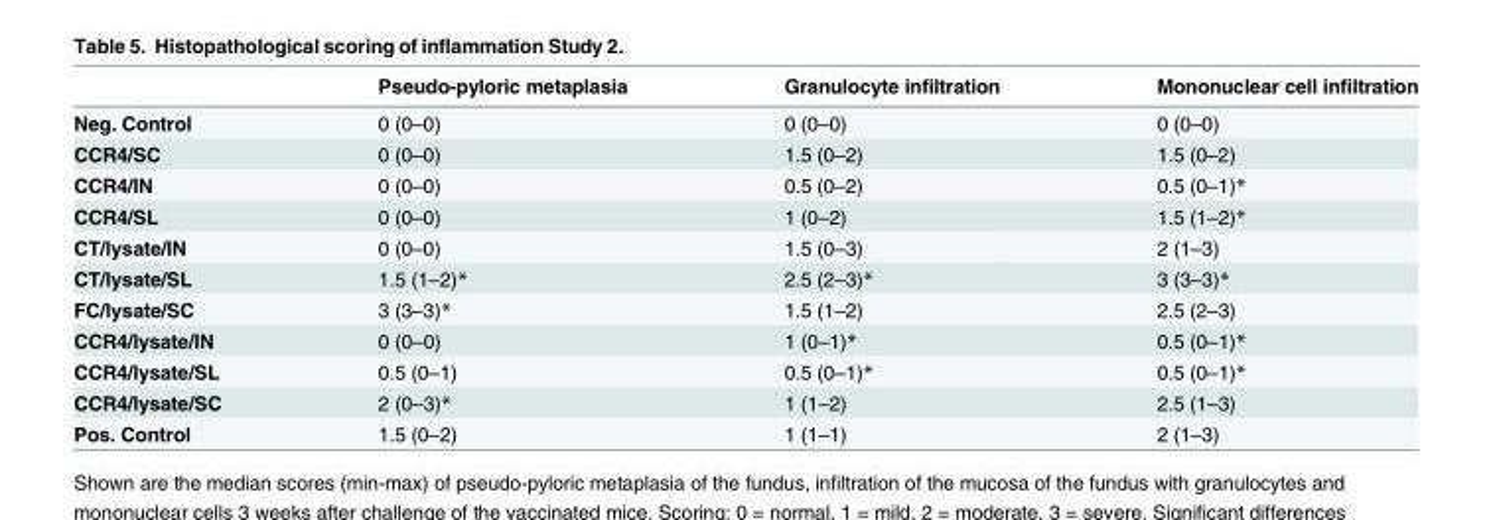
<table><thead><tr><td></td><td>Pseudo-pyloric metaplasia</td><td>Granulocyte infiltration</td><td>Mononuclear cell infiltration</td></tr></thead><tbody><tr><td>Neg. Control</td><td>0 (0–0)</td><td>0 (0–0)</td><td>0 (0–0)</td></tr><tr><td>CCR4/SC</td><td>0 (0–0)</td><td>1.5 (0–2)</td><td>1.5 (0–2)</td></tr><tr><td>CCR4/IN</td><td>0 (0–0)</td><td>0.5 (0–2)</td><td>0.5 (0–1)*</td></tr><tr><td>CCR4/SL</td><td>0 (0–0)</td><td>1 (0–2)</td><td>1.5 (1–2)*</td></tr><tr><td>CT/lysate/IN</td><td>0 (0–0)</td><td>1.5 (0–3)</td><td>2 (1–3)</td></tr><tr><td>CT/lysate/SL</td><td>1.5 (1–2)*</td><td>2.5 (2–3)*</td><td>3 (3–3)*</td></tr><tr><td>FC/lysate/SC</td><td>3 (3–3)*</td><td>1.5 (1–2)</td><td>2.5 (2–3)</td></tr><tr><td>CCR4/lysate/IN</td><td>0 (0–0)</td><td>1 (0–1)*</td><td>0.5 (0–1)*</td></tr><tr><td>CCR4/lysate/SL</td><td>0.5 (0–1)</td><td>0.5 (0–1)*</td><td>0.5 (0–1)*</td></tr><tr><td>CCR4/lysate/SC</td><td>2 (0–3)*</td><td>1 (1–2)</td><td>2.5 (1–3)</td></tr><tr><td>Pos. Control</td><td>1.5 (0–2)</td><td>1 (1–1)</td><td>2 (1–3)</td></tr></tbody></table>